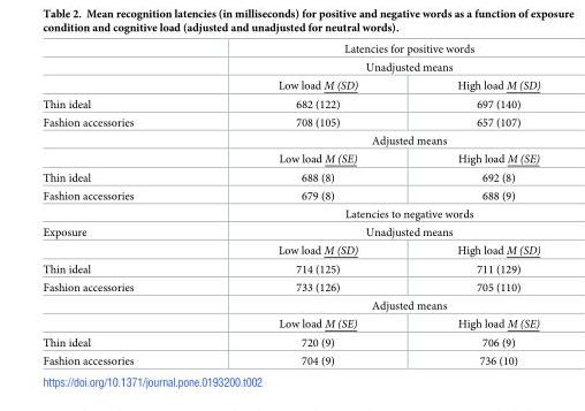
<table><thead><tr><td rowspan="3"></td><td rowspan="2" colspan="2">Latencies for positive words Unadjusted means</td></tr><tr></tr><tr><td>Low load M (SD)</td><td>High load M (SD)</td></tr></thead><tbody><tr><td>Thin ideal</td><td>682 (122)</td><td>697 (140)</td></tr><tr><td rowspan="3">Fashion accessories</td><td>708 (105)</td><td>657 (107)</td></tr><tr><td colspan="2">Adjusted means</td></tr><tr><td>Low load M (SE)</td><td>High load M (SE)</td></tr><tr><td>Thin ideal</td><td>688 (8)</td><td>692 (8)</td></tr><tr><td rowspan="2">Fashion accessories</td><td>679 (8)</td><td>688 (9)</td></tr><tr><td colspan="2">Latencies to negative words</td></tr><tr><td rowspan="2">Exposure</td><td colspan="2">Unadjusted means</td></tr><tr><td>Low load M (SD)</td><td>High load M (SD)</td></tr><tr><td>Thin ideal</td><td>714 (125)</td><td>711 (129)</td></tr><tr><td rowspan="3">Fashion accessories</td><td>733 (126)</td><td>705 (110)</td></tr><tr><td colspan="2">Adjusted means</td></tr><tr><td>Low load M (SE)</td><td>High load M (SE)</td></tr><tr><td>Thin ideal</td><td>720 (9)</td><td>706 (9)</td></tr><tr><td>Fashion accessories</td><td>704 (9)</td><td>736 (10)</td></tr></tbody></table>